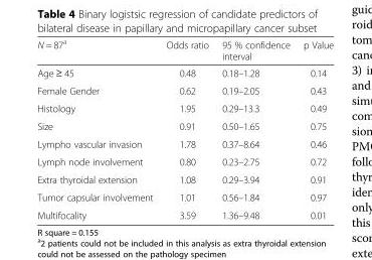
<table><thead><tr><td>N = 87<sup>a</sup></td><td>Odds ratio</td><td>95 % confidence interval</td><td>p Value</td></tr></thead><tbody><tr><td>Age ≥ 45</td><td>0.48</td><td>0.18–1.28</td><td>0.14</td></tr><tr><td>Female Gender</td><td>0.62</td><td>0.19–2.05</td><td>0.43</td></tr><tr><td>Histology</td><td>1.95</td><td>0.29–13.3</td><td>0.49</td></tr><tr><td>Size</td><td>0.91</td><td>0.50–1.65</td><td>0.75</td></tr><tr><td>Lympho vascular invasion</td><td>1.78</td><td>0.37–8.64</td><td>0.46</td></tr><tr><td>Lymph node involvement</td><td>0.80</td><td>0.23–2.75</td><td>0.72</td></tr><tr><td>Extra thyroidal extension</td><td>1.08</td><td>0.29–3.94</td><td>0.91</td></tr><tr><td>Tumor capsular involvement</td><td>1.01</td><td>0.56–1.84</td><td>0.97</td></tr><tr><td>Multifocality</td><td>3.59</td><td>1.36–9.48</td><td>0.01</td></tr></tbody></table>